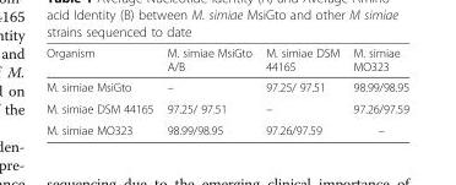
<table><thead><tr><td>Organism</td><td>M. simiae MsiGto A/B</td><td>M. simiae DSM 44165</td><td>M. simiae MO323</td></tr></thead><tbody><tr><td>M. simiae MsiGto</td><td>–</td><td>97.25/ 97.51</td><td>98.99/98.95</td></tr><tr><td>M. simiae DSM 44165</td><td>97.25/ 97.51</td><td>–</td><td>97.26/97.59</td></tr><tr><td>M. simiae MO323</td><td>98.99/98.95</td><td>97.26/97.59</td><td>–</td></tr></tbody></table>